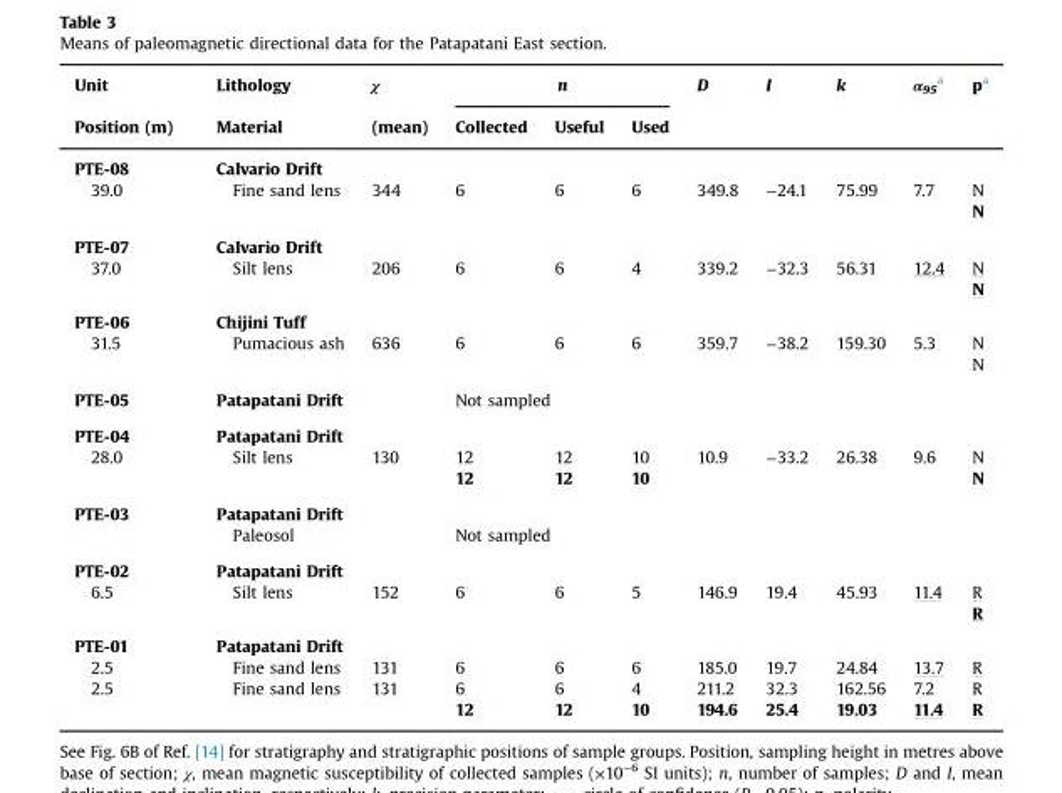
<table><thead><tr><td rowspan="2">Unit Position (m)</td><td rowspan="2">Lithology Material</td><td rowspan="2">χ (mean)</td><td colspan="3">n</td><td rowspan="2">D</td><td rowspan="2">I</td><td rowspan="2">k</td><td rowspan="2">α<sub>95</sub> <sup>a</sup></td><td rowspan="2">p<sup>a</sup></td></tr><tr><td>Collected</td><td>Useful</td><td>Used</td></tr></thead><tbody><tr><td>PTE-08</td><td>Calvario Drift</td><td></td><td></td><td></td><td></td><td></td><td></td><td></td><td></td><td></td></tr><tr><td rowspan="2">39.0</td><td>Fine sand lens</td><td>344</td><td>6</td><td>6</td><td>6</td><td>349.8</td><td>−24.1</td><td>75.99</td><td>7.7</td><td>N</td></tr><tr><td></td><td></td><td></td><td></td><td></td><td></td><td></td><td></td><td></td><td>N</td></tr><tr><td>PTE-07</td><td>Calvario Drift</td><td></td><td></td><td></td><td></td><td></td><td></td><td></td><td></td><td></td></tr><tr><td rowspan="2">37.0</td><td>Silt lens</td><td>206</td><td>6</td><td>6</td><td>4</td><td>339.2</td><td>−32.3</td><td>56.31</td><td>12.4</td><td>N</td></tr><tr><td></td><td></td><td></td><td></td><td></td><td></td><td></td><td></td><td></td><td>N</td></tr><tr><td>PTE-06</td><td>Chijini Tuff</td><td></td><td></td><td></td><td></td><td></td><td></td><td></td><td></td><td></td></tr><tr><td rowspan="2">31.5</td><td>Pumacious ash</td><td>636</td><td>6</td><td>6</td><td>6</td><td>359.7</td><td>−38.2</td><td>159.30</td><td>5.3</td><td>N</td></tr><tr><td></td><td></td><td></td><td></td><td></td><td></td><td></td><td></td><td></td><td>N</td></tr><tr><td>PTE-05</td><td>Patapatani Drift</td><td></td><td colspan="8">Not sampled</td></tr><tr><td>PTE-04</td><td>Patapatani Drift</td><td></td><td></td><td></td><td></td><td></td><td></td><td></td><td></td><td></td></tr><tr><td rowspan="2">28.0</td><td>Silt lens</td><td>130</td><td>12</td><td>12</td><td>10</td><td>10.9</td><td>−33.2</td><td>26.38</td><td>9.6</td><td>N</td></tr><tr><td></td><td></td><td>12</td><td>12</td><td>10</td><td></td><td></td><td></td><td></td><td>N</td></tr><tr><td rowspan="2">PTE-03</td><td>Patapatani Drift</td><td></td><td></td><td></td><td></td><td></td><td></td><td></td><td></td><td></td></tr><tr><td>Paleosol</td><td></td><td colspan="8">Not sampled</td></tr><tr><td>PTE-02</td><td>Patapatani Drift</td><td></td><td></td><td></td><td></td><td></td><td></td><td></td><td></td><td></td></tr><tr><td rowspan="2">6.5</td><td>Silt lens</td><td>152</td><td>6</td><td>6</td><td>5</td><td>146.9</td><td>19.4</td><td>45.93</td><td>11.4</td><td>R</td></tr><tr><td></td><td></td><td></td><td></td><td></td><td></td><td></td><td></td><td></td><td>R</td></tr><tr><td>PTE-01</td><td>Patapatani Drift</td><td></td><td></td><td></td><td></td><td></td><td></td><td></td><td></td><td></td></tr><tr><td>2.5</td><td>Fine sand lens</td><td>131</td><td>6</td><td>6</td><td>6</td><td>185.0</td><td>19.7</td><td>24.84</td><td>13.7</td><td>R</td></tr><tr><td rowspan="2">2.5</td><td>Fine sand lens</td><td>131</td><td>6</td><td>6</td><td>4</td><td>211.2</td><td>32.3</td><td>162.56</td><td>7.2</td><td>R</td></tr><tr><td></td><td></td><td>12</td><td>12</td><td>10</td><td>194.6</td><td>25.4</td><td>19.03</td><td>11.4</td><td>R</td></tr></tbody></table>